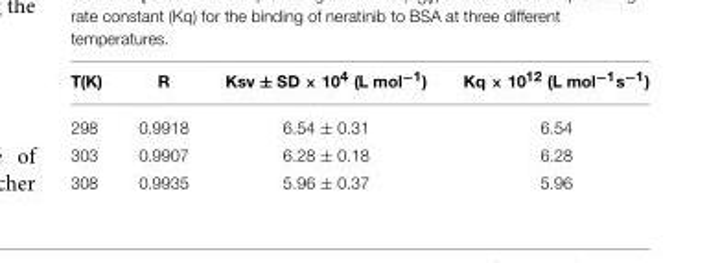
<table><thead><tr><td>T(K)</td><td>R</td><td>Ksv ± SD × 10<sup>4</sup> (L mol<sup>−1</sup>)</td><td>Kq × 10<sup>12</sup> (L mol<sup>−1</sup>s<sup>−1</sup>)</td></tr></thead><tbody><tr><td>298</td><td>0.9918</td><td>6.54 ± 0.31</td><td>6.54</td></tr><tr><td>303</td><td>0.9907</td><td>6.28 ± 0.18</td><td>6.28</td></tr><tr><td>308</td><td>0.9935</td><td>5.96 ± 0.37</td><td>5.96</td></tr></tbody></table>